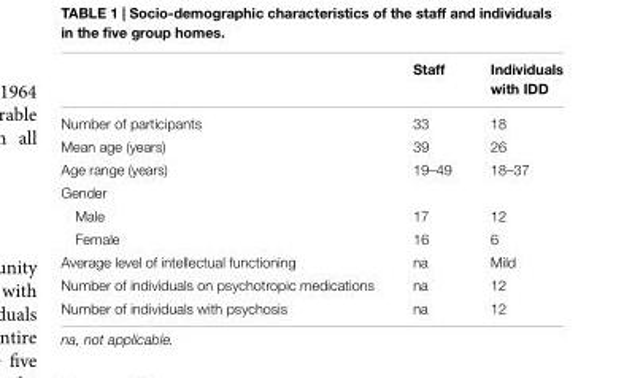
<table><thead><tr><td></td><td>Staff</td><td>Individuals with IDD</td></tr></thead><tbody><tr><td>Number of participants</td><td>33</td><td>18</td></tr><tr><td>Mean age (years)</td><td>39</td><td>26</td></tr><tr><td>Age range (years)</td><td>19–49</td><td>18–37</td></tr><tr><td colspan="3">Gender</td></tr><tr><td>Male</td><td>17</td><td>12</td></tr><tr><td>Female</td><td>16</td><td>6</td></tr><tr><td>Average level of intellectual functioning</td><td>na</td><td>Mild</td></tr><tr><td>Number of individuals on psychotropic medications</td><td>na</td><td>12</td></tr><tr><td>Number of individuals with psychosis</td><td>na</td><td>12</td></tr></tbody></table>